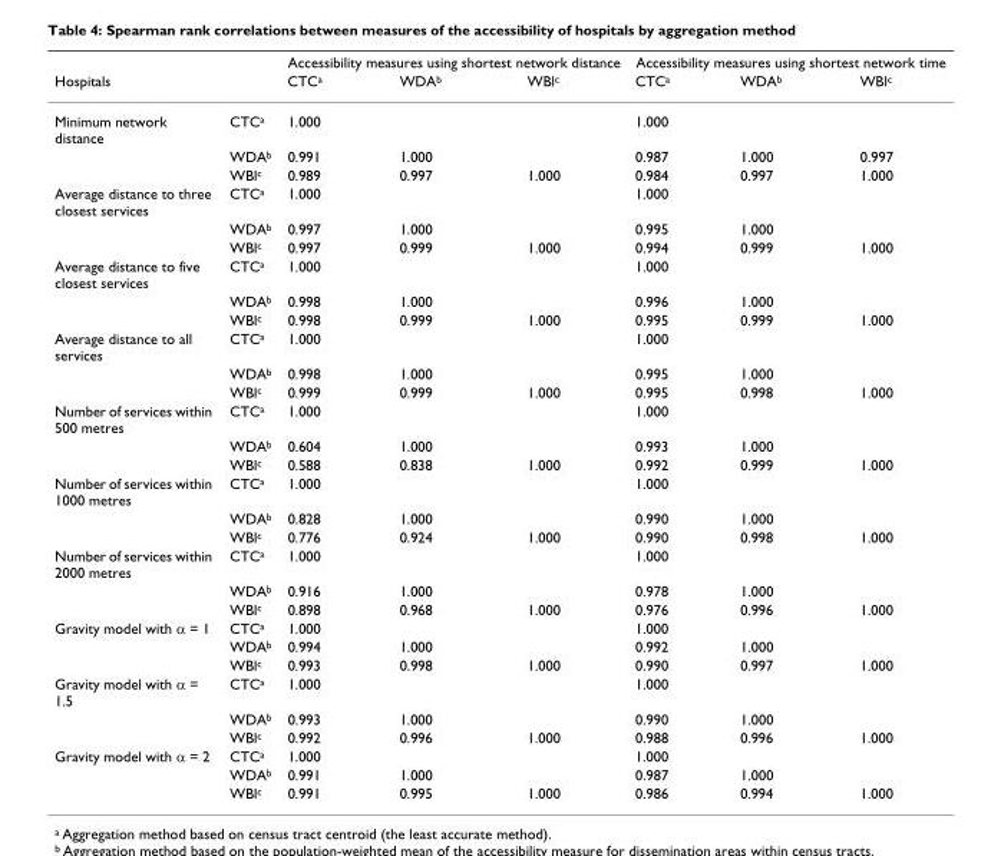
<table><thead><tr><td rowspan="2">Hospitals</td><td rowspan="2"></td><td colspan="3">Accessibility measures using shortest network distance</td><td colspan="3">Accessibility measures using shortest network time</td></tr><tr><td>CTC<sup>a</sup></td><td>WDA<sup>b</sup></td><td>WBl<sup>c</sup></td><td>CTC<sup>a</sup></td><td>WDA<sup>b</sup></td><td>WBl<sup>c</sup></td></tr></thead><tbody><tr><td rowspan="3">Minimum network distance</td><td>CTC<sup>a</sup></td><td>1.000</td><td></td><td></td><td>1.000</td><td></td><td></td></tr><tr><td>WDA<sup>b</sup></td><td>0.991</td><td>1.000</td><td></td><td>0.987</td><td>1.000</td><td>0.997</td></tr><tr><td>WBl<sup>c</sup></td><td>0.989</td><td>0.997</td><td>1.000</td><td>0.984</td><td>0.997</td><td>1.000</td></tr><tr><td rowspan="3">Average distance to three closest services</td><td>CTC<sup>a</sup></td><td>1.000</td><td></td><td></td><td>1.000</td><td></td><td></td></tr><tr><td>WDA<sup>b</sup></td><td>0.997</td><td>1.000</td><td></td><td>0.995</td><td>1.000</td><td></td></tr><tr><td>WBl<sup>c</sup></td><td>0.997</td><td>0.999</td><td>1.000</td><td>0.994</td><td>0.999</td><td>1.000</td></tr><tr><td rowspan="3">Average distance to five closest services</td><td>CTC<sup>a</sup></td><td>1.000</td><td></td><td></td><td>1.000</td><td></td><td></td></tr><tr><td>WDA<sup>b</sup></td><td>0.998</td><td>1.000</td><td></td><td>0.996</td><td>1.000</td><td></td></tr><tr><td>WBl<sup>c</sup></td><td>0.998</td><td>0.999</td><td>1.000</td><td>0.995</td><td>0.999</td><td>1.000</td></tr><tr><td rowspan="3">Average distance to all services</td><td>CTC<sup>a</sup></td><td>1.000</td><td></td><td></td><td>1.000</td><td></td><td></td></tr><tr><td>WDA<sup>b</sup></td><td>0.998</td><td>1.000</td><td></td><td>0.995</td><td>1.000</td><td></td></tr><tr><td>WBl<sup>c</sup></td><td>0.999</td><td>0.999</td><td>1.000</td><td>0.995</td><td>0.998</td><td>1.000</td></tr><tr><td rowspan="3">Number of services within 500 metres</td><td>CTC<sup>a</sup></td><td>1.000</td><td></td><td></td><td>1.000</td><td></td><td></td></tr><tr><td>WDA<sup>b</sup></td><td>0.604</td><td>1.000</td><td></td><td>0.993</td><td>1.000</td><td></td></tr><tr><td>WBl<sup>c</sup></td><td>0.588</td><td>0.838</td><td>1.000</td><td>0.992</td><td>0.999</td><td>1.000</td></tr><tr><td rowspan="3">Number of services within 1000 metres</td><td>CTC<sup>a</sup></td><td>1.000</td><td></td><td></td><td>1.000</td><td></td><td></td></tr><tr><td>WDA<sup>b</sup></td><td>0.828</td><td>1.000</td><td></td><td>0.990</td><td>1.000</td><td></td></tr><tr><td>WBl<sup>c</sup></td><td>0.776</td><td>0.924</td><td>1.000</td><td>0.990</td><td>0.998</td><td>1.000</td></tr><tr><td rowspan="3">Number of services within 2000 metres</td><td>CTC<sup>a</sup></td><td>1.000</td><td></td><td></td><td>1.000</td><td></td><td></td></tr><tr><td>WDA<sup>b</sup></td><td>0.916</td><td>1.000</td><td></td><td>0.978</td><td>1.000</td><td></td></tr><tr><td>WBl<sup>c</sup></td><td>0.898</td><td>0.968</td><td>1.000</td><td>0.976</td><td>0.996</td><td>1.000</td></tr><tr><td rowspan="3">Gravity model with α = 1</td><td>CTC<sup>a</sup></td><td>1.000</td><td></td><td></td><td>1.000</td><td></td><td></td></tr><tr><td>WDA<sup>b</sup></td><td>0.994</td><td>1.000</td><td></td><td>0.992</td><td>1.000</td><td></td></tr><tr><td>WBl<sup>c</sup></td><td>0.993</td><td>0.998</td><td>1.000</td><td>0.990</td><td>0.997</td><td>1.000</td></tr><tr><td rowspan="3">Gravity model with α = 1.5</td><td>CTC<sup>a</sup></td><td>1.000</td><td></td><td></td><td>1.000</td><td></td><td></td></tr><tr><td>WDA<sup>b</sup></td><td>0.993</td><td>1.000</td><td></td><td>0.990</td><td>1.000</td><td></td></tr><tr><td>WBl<sup>c</sup></td><td>0.992</td><td>0.996</td><td>1.000</td><td>0.988</td><td>0.996</td><td>1.000</td></tr><tr><td rowspan="3">Gravity model with α = 2</td><td>CTC<sup>a</sup></td><td>1.000</td><td></td><td></td><td>1.000</td><td></td><td></td></tr><tr><td>WDA<sup>b</sup></td><td>0.991</td><td>1.000</td><td></td><td>0.987</td><td>1.000</td><td></td></tr><tr><td>WBl<sup>c</sup></td><td>0.991</td><td>0.995</td><td>1.000</td><td>0.986</td><td>0.994</td><td>1.000</td></tr></tbody></table>